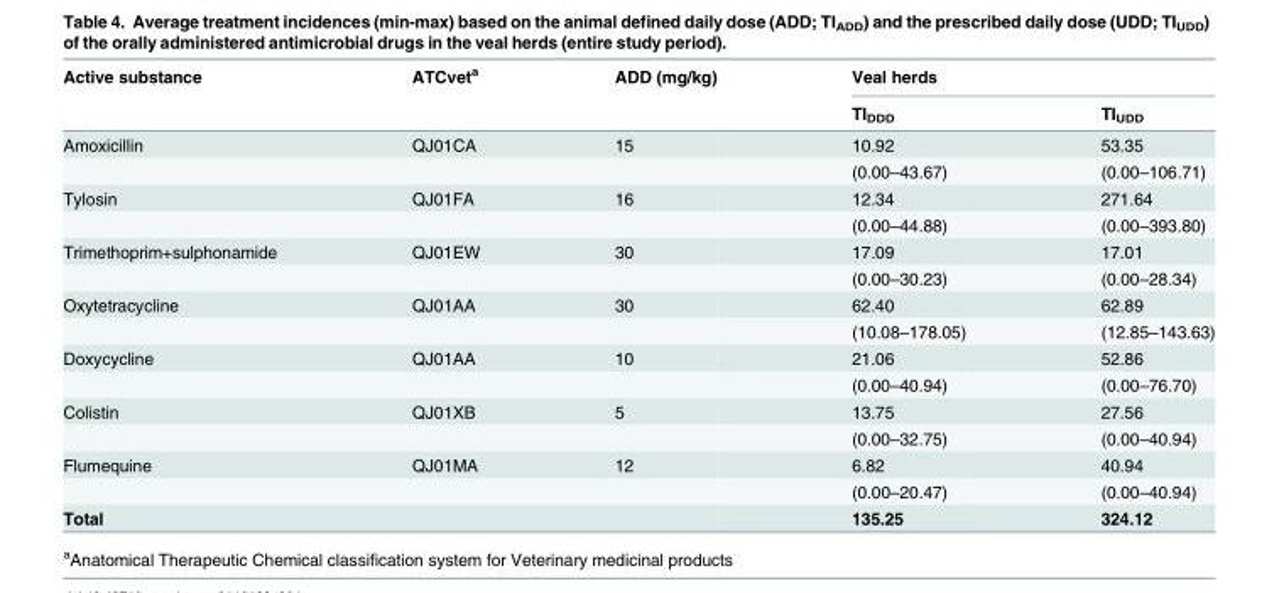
<table><thead><tr><td rowspan="2">Active substance</td><td rowspan="2">ATCvet<sup>a</sup></td><td rowspan="2">ADD (mg/kg)</td><td colspan="2">Veal herds</td></tr><tr><td>TI<sub>DDD</sub></td><td>TI<sub>UDD</sub></td></tr></thead><tbody><tr><td rowspan="2">Amoxicillin</td><td>QJ01CA</td><td>15</td><td>10.92</td><td>53.35</td></tr><tr><td></td><td></td><td>(0.00–43.67)</td><td>(0.00–106.71)</td></tr><tr><td rowspan="2">Tylosin</td><td>QJ01FA</td><td>16</td><td>12.34</td><td>271.64</td></tr><tr><td></td><td></td><td>(0.00–44.88)</td><td>(0.00–393.80)</td></tr><tr><td rowspan="2">Trimethoprim+sulphonamide</td><td>QJ01EW</td><td>30</td><td>17.09</td><td>17.01</td></tr><tr><td></td><td></td><td>(0.00–30.23)</td><td>(0.00–28.34)</td></tr><tr><td rowspan="2">Oxytetracycline</td><td>QJ01AA</td><td>30</td><td>62.40</td><td>62.89</td></tr><tr><td></td><td></td><td>(10.08–178.05)</td><td>(12.85–143.63)</td></tr><tr><td rowspan="2">Doxycycline</td><td>QJ01AA</td><td>10</td><td>21.06</td><td>52.86</td></tr><tr><td></td><td></td><td>(0.00–40.94)</td><td>(0.00–76.70)</td></tr><tr><td rowspan="2">Colistin</td><td>QJ01XB</td><td>5</td><td>13.75</td><td>27.56</td></tr><tr><td></td><td></td><td>(0.00–32.75)</td><td>(0.00–40.94)</td></tr><tr><td rowspan="2">Flumequine</td><td>QJ01MA</td><td>12</td><td>6.82</td><td>40.94</td></tr><tr><td></td><td></td><td>(0.00–20.47)</td><td>(0.00–40.94)</td></tr><tr><td>Total</td><td></td><td></td><td>135.25</td><td>324.12</td></tr></tbody></table>